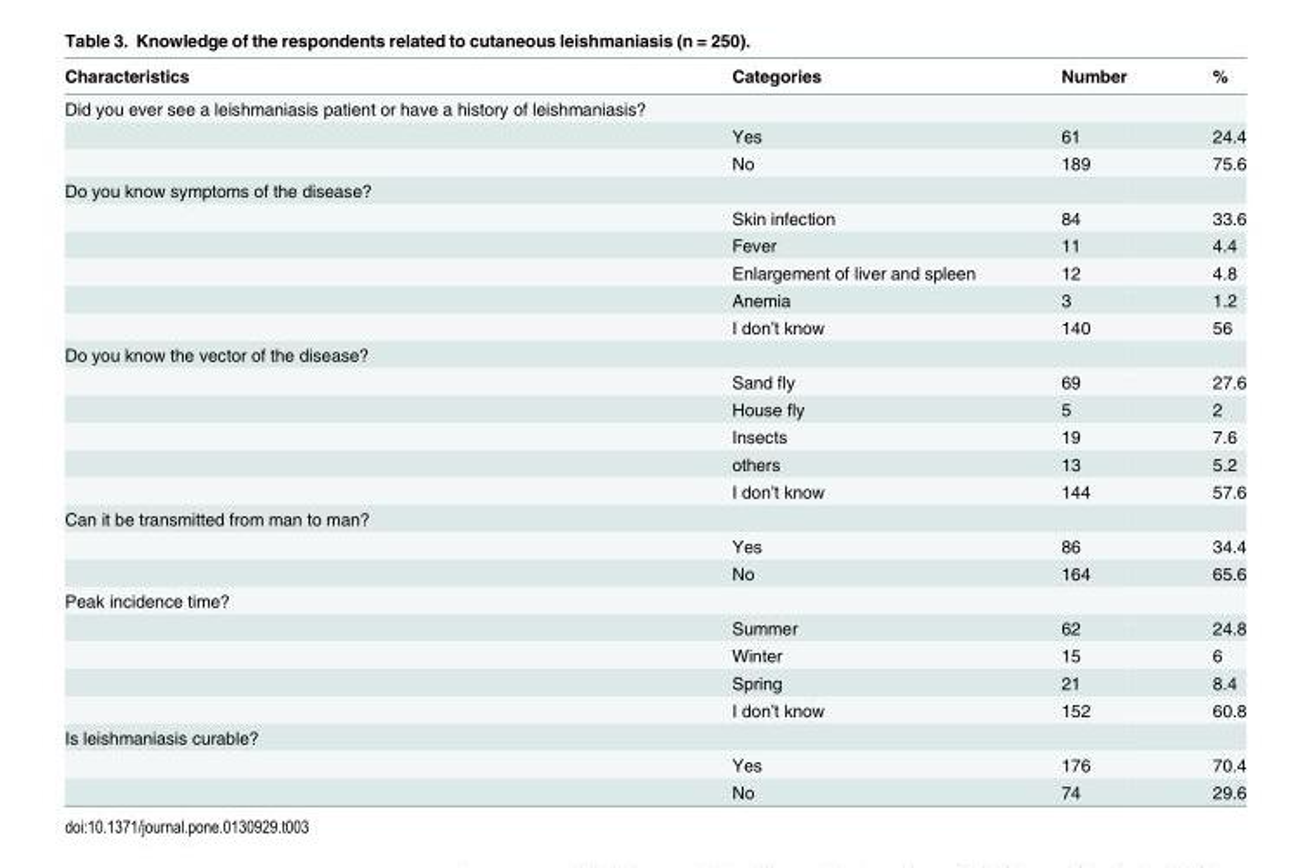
<table><thead><tr><td>Characteristics</td><td>Categories</td><td>Number</td><td>%</td></tr></thead><tbody><tr><td colspan="4">Did you ever see a leishmaniasis patient or have a history of leishmaniasis?</td></tr><tr><td></td><td>Yes</td><td>61</td><td>24.4</td></tr><tr><td></td><td>No</td><td>189</td><td>75.6</td></tr><tr><td colspan="4">Do you know symptoms of the disease?</td></tr><tr><td></td><td>Skin infection</td><td>84</td><td>33.6</td></tr><tr><td></td><td>Fever</td><td>11</td><td>4.4</td></tr><tr><td></td><td>Enlargement of liver and spleen</td><td>12</td><td>4.8</td></tr><tr><td></td><td>Anemia</td><td>3</td><td>1.2</td></tr><tr><td></td><td>I don’t know</td><td>140</td><td>56</td></tr><tr><td colspan="4">Do you know the vector of the disease?</td></tr><tr><td></td><td>Sand fly</td><td>69</td><td>27.6</td></tr><tr><td></td><td>House fly</td><td>5</td><td>2</td></tr><tr><td></td><td>Insects</td><td>19</td><td>7.6</td></tr><tr><td></td><td>others</td><td>13</td><td>5.2</td></tr><tr><td></td><td>I don’t know</td><td>144</td><td>57.6</td></tr><tr><td colspan="4">Can it be transmitted from man to man?</td></tr><tr><td></td><td>Yes</td><td>86</td><td>34.4</td></tr><tr><td></td><td>No</td><td>164</td><td>65.6</td></tr><tr><td colspan="4">Peak incidence time?</td></tr><tr><td></td><td>Summer</td><td>62</td><td>24.8</td></tr><tr><td></td><td>Winter</td><td>15</td><td>6</td></tr><tr><td></td><td>Spring</td><td>21</td><td>8.4</td></tr><tr><td></td><td>I don’t know</td><td>152</td><td>60.8</td></tr><tr><td colspan="4">Is leishmaniasis curable?</td></tr><tr><td></td><td>Yes</td><td>176</td><td>70.4</td></tr><tr><td></td><td>No</td><td>74</td><td>29.6</td></tr></tbody></table>